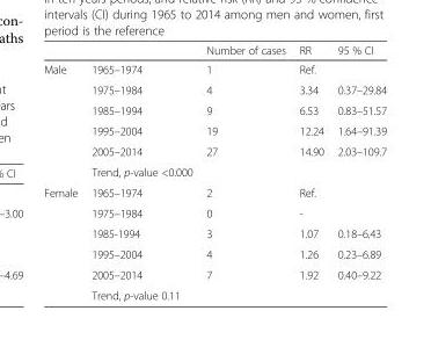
<table><thead><tr><td></td><td></td><td>Number of cases</td><td>RR</td><td>95 % CI</td></tr></thead><tbody><tr><td rowspan="6">Male</td><td>1965–1974</td><td>1</td><td>Ref.</td><td></td></tr><tr><td>1975–1984</td><td>4</td><td>3.34</td><td>0.37–29.84</td></tr><tr><td>1985–1994</td><td>9</td><td>6.53</td><td>0.83–51.57</td></tr><tr><td>1995–2004</td><td>19</td><td>12.24</td><td>1.64–91.39</td></tr><tr><td>2005–2014</td><td>27</td><td>14.90</td><td>2.03–109.7</td></tr><tr><td>Trend, p-value &lt;0.000</td><td></td><td></td><td></td></tr><tr><td rowspan="6">Female</td><td>1965–1974</td><td>2</td><td>Ref.</td><td></td></tr><tr><td>1975–1984</td><td>0</td><td>-</td><td></td></tr><tr><td>1985-1994</td><td>3</td><td>1.07</td><td>0.18–6.43</td></tr><tr><td>1995–2004</td><td>4</td><td>1.26</td><td>0.23–6.89</td></tr><tr><td>2005–2014</td><td>7</td><td>1.92</td><td>0.40–9.22</td></tr><tr><td>Trend, p-value 0.11</td><td></td><td></td><td></td></tr></tbody></table>